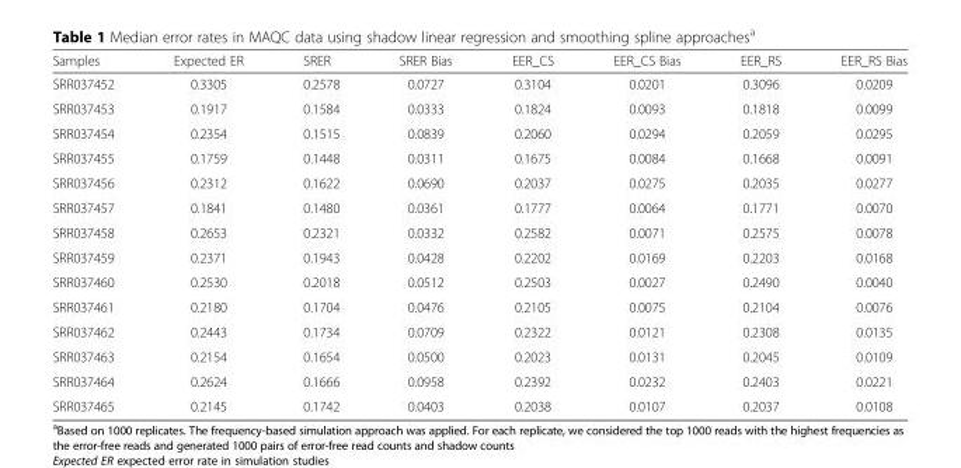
<table><thead><tr><td>Samples</td><td>Expected ER</td><td>SRER</td><td>SRER Bias</td><td>EER_CS</td><td>EER_CS Bias</td><td>EER_RS</td><td>EER_RS Bias</td></tr></thead><tbody><tr><td>SRR037452</td><td>0.3305</td><td>0.2578</td><td>0.0727</td><td>0.3104</td><td>0.0201</td><td>0.3096</td><td>0.0209</td></tr><tr><td>SRR037453</td><td>0.1917</td><td>0.1584</td><td>0.0333</td><td>0.1824</td><td>0.0093</td><td>0.1818</td><td>0.0099</td></tr><tr><td>SRR037454</td><td>0.2354</td><td>0.1515</td><td>0.0839</td><td>0.2060</td><td>0.0294</td><td>0.2059</td><td>0.0295</td></tr><tr><td>SRR037455</td><td>0.1759</td><td>0.1448</td><td>0.0311</td><td>0.1675</td><td>0.0084</td><td>0.1668</td><td>0.0091</td></tr><tr><td>SRR037456</td><td>0.2312</td><td>0.1622</td><td>0.0690</td><td>0.2037</td><td>0.0275</td><td>0.2035</td><td>0.0277</td></tr><tr><td>SRR037457</td><td>0.1841</td><td>0.1480</td><td>0.0361</td><td>0.1777</td><td>0.0064</td><td>0.1771</td><td>0.0070</td></tr><tr><td>SRR037458</td><td>0.2653</td><td>0.2321</td><td>0.0332</td><td>0.2582</td><td>0.0071</td><td>0.2575</td><td>0.0078</td></tr><tr><td>SRR037459</td><td>0.2371</td><td>0.1943</td><td>0.0428</td><td>0.2202</td><td>0.0169</td><td>0.2203</td><td>0.0168</td></tr><tr><td>SRR037460</td><td>0.2530</td><td>0.2018</td><td>0.0512</td><td>0.2503</td><td>0.0027</td><td>0.2490</td><td>0.0040</td></tr><tr><td>SRR037461</td><td>0.2180</td><td>0.1704</td><td>0.0476</td><td>0.2105</td><td>0.0075</td><td>0.2104</td><td>0.0076</td></tr><tr><td>SRR037462</td><td>0.2443</td><td>0.1734</td><td>0.0709</td><td>0.2322</td><td>0.0121</td><td>0.2308</td><td>0.0135</td></tr><tr><td>SRR037463</td><td>0.2154</td><td>0.1654</td><td>0.0500</td><td>0.2023</td><td>0.0131</td><td>0.2045</td><td>0.0109</td></tr><tr><td>SRR037464</td><td>0.2624</td><td>0.1666</td><td>0.0958</td><td>0.2392</td><td>0.0232</td><td>0.2403</td><td>0.0221</td></tr><tr><td>SRR037465</td><td>0.2145</td><td>0.1742</td><td>0.0403</td><td>0.2038</td><td>0.0107</td><td>0.2037</td><td>0.0108</td></tr></tbody></table>